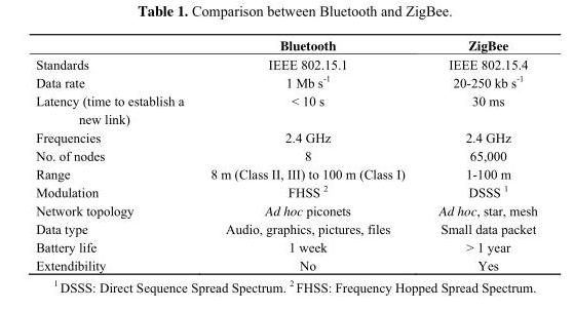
<table><thead><tr><td></td><td>Bluetooth</td><td>ZigBee</td></tr></thead><tbody><tr><td>Standards</td><td>IEEE 802.15.1</td><td>IEEE 802.15.4</td></tr><tr><td>Data rate</td><td>1 Mb s<sup>-1</sup></td><td>20-250 kb s<sup>-1</sup></td></tr><tr><td>Latency (time to establish a new link)</td><td>&lt; 10 s</td><td>30 ms</td></tr><tr><td>Frequencies</td><td>2.4 GHz</td><td>2.4 GHz</td></tr><tr><td>No. of nodes</td><td>8</td><td>65,000</td></tr><tr><td>Range</td><td>8 m (Class II, III) to 100 m (Class I)</td><td>1-100 m</td></tr><tr><td>Modulation</td><td>FHSS <sup>2</sup></td><td>DSSS <sup>1</sup></td></tr><tr><td>Network topology</td><td>Ad hoc piconets</td><td>Ad hoc, star, mesh</td></tr><tr><td>Data type</td><td>Audio, graphics, pictures, files</td><td>Small data packet</td></tr><tr><td>Battery life</td><td>1 week</td><td>&gt; 1 year</td></tr><tr><td>Extendibility</td><td>No</td><td>Yes</td></tr></tbody></table>